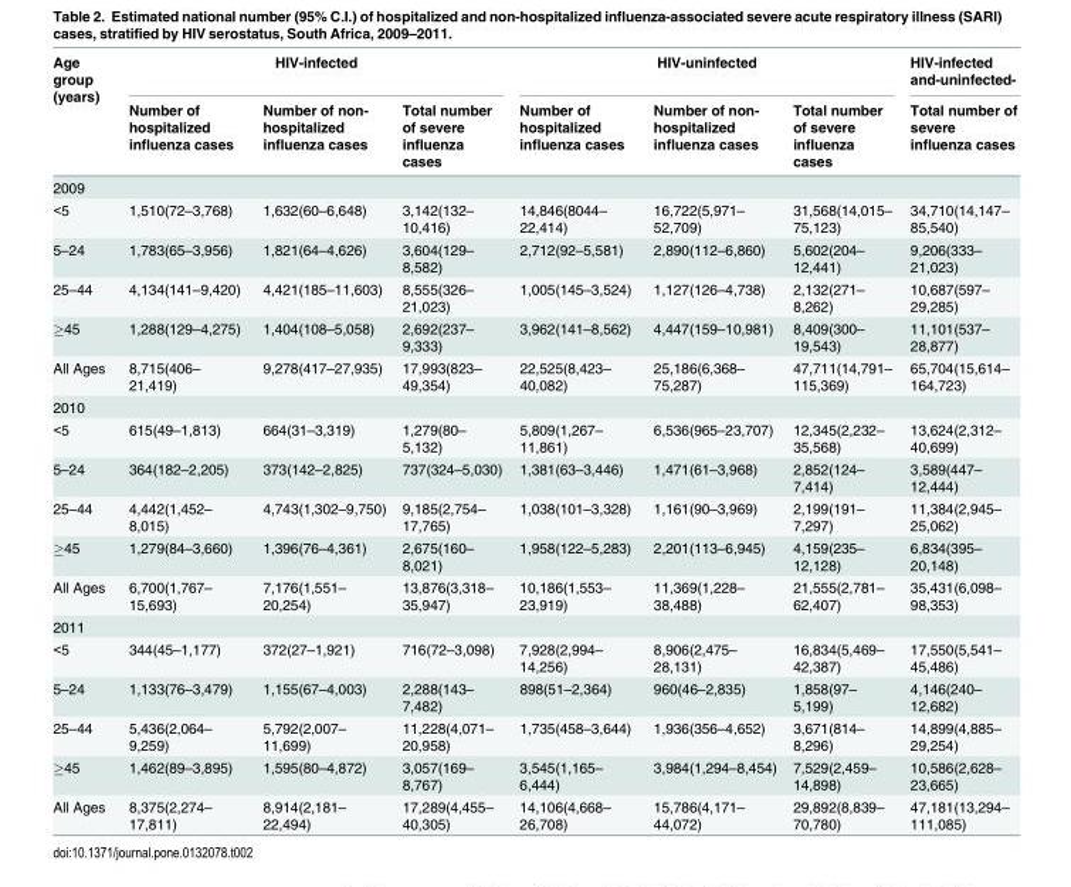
<table><thead><tr><td rowspan="2">Age group (years)</td><td colspan="3">HIV-infected</td><td colspan="3">HIV-uninfected</td><td rowspan="2">HIV-infected and-uninfected- Total number of severe influenza cases</td></tr><tr><td>Number of hospitalized influenza cases</td><td>Number of non- hospitalized influenza cases</td><td>Total number of severe influenza cases</td><td>Number of hospitalized influenza cases</td><td>Number of non- hospitalized influenza cases</td><td>Total number of severe influenza cases</td></tr></thead><tbody><tr><td colspan="8">2009</td></tr><tr><td>&lt;5</td><td>1,510(72–3,768)</td><td>1,632(60–6,648)</td><td>3,142(132– 10,416)</td><td>14,846(8044– 22,414)</td><td>16,722(5,971– 52,709)</td><td>31,568(14,015– 75,123)</td><td>34,710(14,147– 85,540)</td></tr><tr><td>5–24</td><td>1,783(65–3,956)</td><td>1,821(64–4,626)</td><td>3,604(129– 8,582)</td><td>2,712(92–5,581)</td><td>2,890(112–6,860)</td><td>5,602(204– 12,441)</td><td>9,206(333– 21,023)</td></tr><tr><td>25–44</td><td>4,134(141–9,420)</td><td>4,421(185–11,603)</td><td>8,555(326– 21,023)</td><td>1,005(145–3,524)</td><td>1,127(126–4,738)</td><td>2,132(271– 8,262)</td><td>10,687(597– 29,285)</td></tr><tr><td>≥45</td><td>1,288(129–4,275)</td><td>1,404(108–5,058)</td><td>2,692(237– 9,333)</td><td>3,962(141–8,562)</td><td>4,447(159–10,981)</td><td>8,409(300– 19,543)</td><td>11,101(537– 28,877)</td></tr><tr><td>All Ages</td><td>8,715(406– 21,419)</td><td>9,278(417–27,935)</td><td>17,993(823– 49,354)</td><td>22,525(8,423– 40,082)</td><td>25,186(6,368– 75,287)</td><td>47,711(14,791– 115,369)</td><td>65,704(15,614– 164,723)</td></tr><tr><td colspan="8">2010</td></tr><tr><td>&lt;5</td><td>615(49–1,813)</td><td>664(31–3,319)</td><td>1,279(80– 5,132)</td><td>5,809(1,267– 11,861)</td><td>6,536(965–23,707)</td><td>12,345(2,232– 35,568)</td><td>13,624(2,312– 40,699)</td></tr><tr><td>5–24</td><td>364(182–2,205)</td><td>373(142–2,825)</td><td>737(324–5,030)</td><td>1,381(63–3,446)</td><td>1,471(61–3,968)</td><td>2,852(124– 7,414)</td><td>3,589(447– 12,444)</td></tr><tr><td>25–44</td><td>4,442(1,452– 8,015)</td><td>4,743(1,302–9,750)</td><td>9,185(2,754– 17,765)</td><td>1,038(101–3,328)</td><td>1,161(90–3,969)</td><td>2,199(191– 7,297)</td><td>11,384(2,945– 25,062)</td></tr><tr><td>≥45</td><td>1,279(84–3,660)</td><td>1,396(76–4,361)</td><td>2,675(160– 8,021)</td><td>1,958(122–5,283)</td><td>2,201(113–6,945)</td><td>4,159(235– 12,128)</td><td>6,834(395– 20,148)</td></tr><tr><td>All Ages</td><td>6,700(1,767– 15,693)</td><td>7,176(1,551– 20,254)</td><td>13,876(3,318– 35,947)</td><td>10,186(1,553– 23,919)</td><td>11,369(1,228– 38,488)</td><td>21,555(2,781– 62,407)</td><td>35,431(6,098– 98,353)</td></tr><tr><td colspan="8">2011</td></tr><tr><td>&lt;5</td><td>344(45–1,177)</td><td>372(27–1,921)</td><td>716(72–3,098)</td><td>7,928(2,994– 14,256)</td><td>8,906(2,475– 28,131)</td><td>16,834(5,469– 42,387)</td><td>17,550(5,541– 45,486)</td></tr><tr><td>5–24</td><td>1,133(76–3,479)</td><td>1,155(67–4,003)</td><td>2,288(143– 7,482)</td><td>898(51–2,364)</td><td>960(46–2,835)</td><td>1,858(97– 5,199)</td><td>4,146(240– 12,682)</td></tr><tr><td>25–44</td><td>5,436(2,064– 9,259)</td><td>5,792(2,007– 11,699)</td><td>11,228(4,071– 20,958)</td><td>1,735(458–3,644)</td><td>1,936(356–4,652)</td><td>3,671(814– 8,296)</td><td>14,899(4,885– 29,254)</td></tr><tr><td>≥45</td><td>1,462(89–3,895)</td><td>1,595(80–4,872)</td><td>3,057(169– 8,767)</td><td>3,545(1,165– 6,444)</td><td>3,984(1,294–8,454)</td><td>7,529(2,459– 14,898)</td><td>10,586(2,628– 23,665)</td></tr><tr><td>All Ages</td><td>8,375(2,274– 17,811)</td><td>8,914(2,181– 22,494)</td><td>17,289(4,455– 40,305)</td><td>14,106(4,668– 26,708)</td><td>15,786(4,171– 44,072)</td><td>29,892(8,839– 70,780)</td><td>47,181(13,294– 111,085)</td></tr></tbody></table>